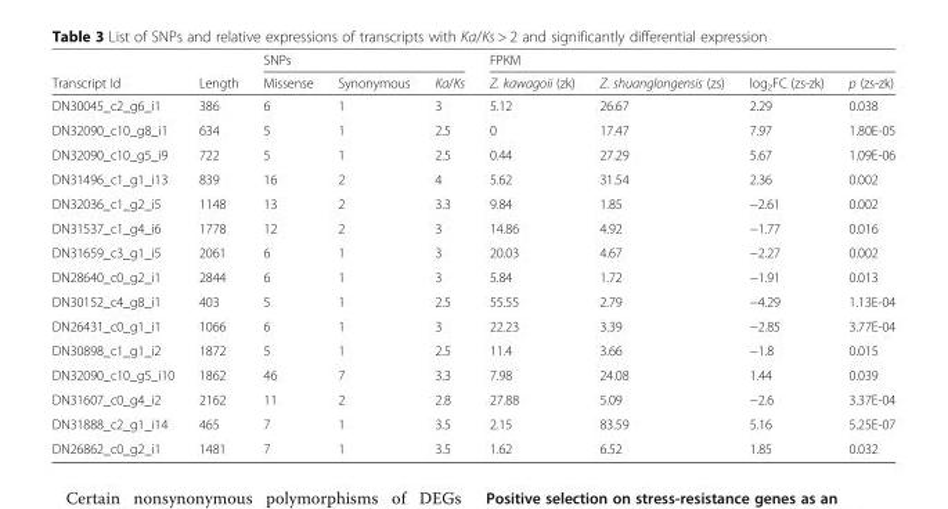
<table><thead><tr><td rowspan="2">Transcript Id</td><td rowspan="2">Length</td><td colspan="3">SNPs</td><td colspan="4">FPKM</td></tr><tr><td>Missense</td><td>Synonymous</td><td>Ka/Ks</td><td>Z. kawagoii (zk)</td><td>Z. shuanglongensis (zs)</td><td>log<sub>2</sub>FC (zs-zk)</td><td>p (zs-zk)</td></tr></thead><tbody><tr><td>DN30045_c2_g6_i1</td><td>386</td><td>6</td><td>1</td><td>3</td><td>5.12</td><td>26.67</td><td>2.29</td><td>0.038</td></tr><tr><td>DN32090_c10_g8_i1</td><td>634</td><td>5</td><td>1</td><td>2.5</td><td>0</td><td>17.47</td><td>7.97</td><td>1.80E-05</td></tr><tr><td>DN32090_c10_g5_i9</td><td>722</td><td>5</td><td>1</td><td>2.5</td><td>0.44</td><td>27.29</td><td>5.67</td><td>1.09E-06</td></tr><tr><td>DN31496_c1_g1_i13</td><td>839</td><td>16</td><td>2</td><td>4</td><td>5.62</td><td>31.54</td><td>2.36</td><td>0.002</td></tr><tr><td>DN32036_c1_g2_i5</td><td>1148</td><td>13</td><td>2</td><td>3.3</td><td>9.84</td><td>1.85</td><td>−2.61</td><td>0.002</td></tr><tr><td>DN31537_c1_g4_i6</td><td>1778</td><td>12</td><td>2</td><td>3</td><td>14.86</td><td>4.92</td><td>−1.77</td><td>0.016</td></tr><tr><td>DN31659_c3_g1_i5</td><td>2061</td><td>6</td><td>1</td><td>3</td><td>20.03</td><td>4.67</td><td>−2.27</td><td>0.002</td></tr><tr><td>DN28640_c0_g2_i1</td><td>2844</td><td>6</td><td>1</td><td>3</td><td>5.84</td><td>1.72</td><td>−1.91</td><td>0.013</td></tr><tr><td>DN30152_c4_g8_i1</td><td>403</td><td>5</td><td>1</td><td>2.5</td><td>55.55</td><td>2.79</td><td>−4.29</td><td>1.13E-04</td></tr><tr><td>DN26431_c0_g1_i1</td><td>1066</td><td>6</td><td>1</td><td>3</td><td>22.23</td><td>3.39</td><td>−2.85</td><td>3.77E-04</td></tr><tr><td>DN30898_c1_g1_i2</td><td>1872</td><td>5</td><td>1</td><td>2.5</td><td>11.4</td><td>3.66</td><td>−1.8</td><td>0.015</td></tr><tr><td>DN32090_c10_g5_i10</td><td>1862</td><td>46</td><td>7</td><td>3.3</td><td>7.98</td><td>24.08</td><td>1.44</td><td>0.039</td></tr><tr><td>DN31607_c0_g4_i2</td><td>2162</td><td>11</td><td>2</td><td>2.8</td><td>27.88</td><td>5.09</td><td>−2.6</td><td>3.37E-04</td></tr><tr><td>DN31888_c2_g1_i14</td><td>465</td><td>7</td><td>1</td><td>3.5</td><td>2.15</td><td>83.59</td><td>5.16</td><td>5.25E-07</td></tr><tr><td>DN26862_c0_g2_i1</td><td>1481</td><td>7</td><td>1</td><td>3.5</td><td>1.62</td><td>6.52</td><td>1.85</td><td>0.032</td></tr></tbody></table>